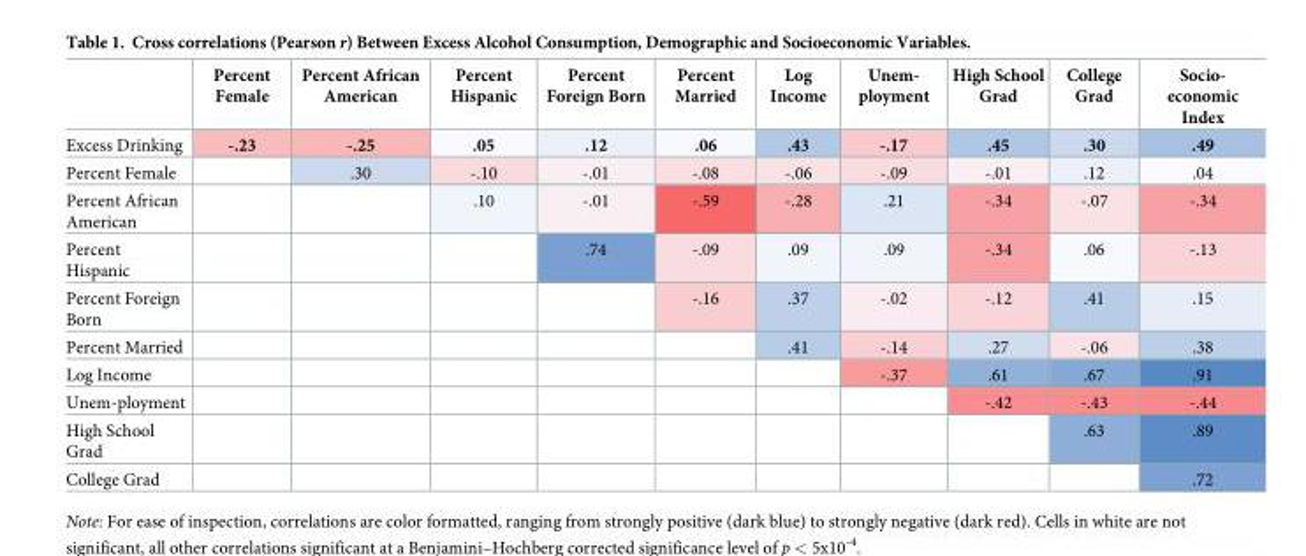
<table><thead><tr><td></td><td>Percent Female</td><td>Percent African American</td><td>Percent Hispanic</td><td>Percent Foreign Born</td><td>Percent Married</td><td>Log Income</td><td>Unem- ployment</td><td>High School Grad</td><td>College Grad</td><td>Socio- economic Index</td></tr></thead><tbody><tr><td>Excess Drinking</td><td>-.23</td><td>-.25</td><td>.05</td><td>.12</td><td>.06</td><td>.43</td><td>-.17</td><td>.45</td><td>.30</td><td>.49</td></tr><tr><td>Percent Female</td><td></td><td>.30</td><td>-.10</td><td>-.01</td><td>-.08</td><td>-.06</td><td>-.09</td><td>-.01</td><td>.12</td><td>.04</td></tr><tr><td>Percent African American</td><td></td><td></td><td>.10</td><td>-.01</td><td>-.59</td><td>-.28</td><td>.21</td><td>-.34</td><td>-.07</td><td>-.34</td></tr><tr><td>Percent Hispanic</td><td></td><td></td><td></td><td>.74</td><td>-.09</td><td>.09</td><td>.09</td><td>-.34</td><td>.06</td><td>-.13</td></tr><tr><td>Percent Foreign Born</td><td></td><td></td><td></td><td></td><td>-.16</td><td>.37</td><td>-.02</td><td>-.12</td><td>.41</td><td>.15</td></tr><tr><td>Percent Married</td><td></td><td></td><td></td><td></td><td></td><td>.41</td><td>-.14</td><td>.27</td><td>-.06</td><td>.38</td></tr><tr><td>Log Income</td><td></td><td></td><td></td><td></td><td></td><td></td><td>-.37</td><td>.61</td><td>.67</td><td>.91</td></tr><tr><td>Unem-ployment</td><td></td><td></td><td></td><td></td><td></td><td></td><td></td><td>-.42</td><td>-.43</td><td>-.44</td></tr><tr><td>High School Grad</td><td></td><td></td><td></td><td></td><td></td><td></td><td></td><td></td><td>.63</td><td>.89</td></tr><tr><td>College Grad</td><td></td><td></td><td></td><td></td><td></td><td></td><td></td><td></td><td></td><td>.72</td></tr></tbody></table>